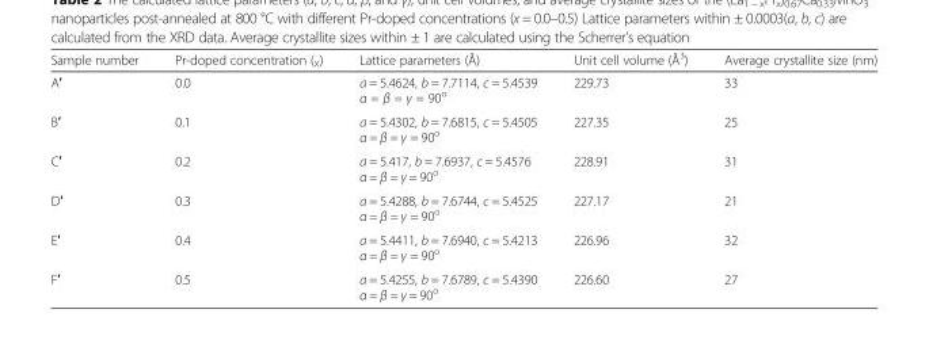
<table><thead><tr><td>Sample number</td><td>Pr-doped concentration (<sub>X</sub>)</td><td>Lattice parameters (Å)</td><td>Unit cell volume (Å<sup>3</sup>)</td><td>Average crystallite size (nm)</td></tr></thead><tbody><tr><td>A′</td><td>0.0</td><td>a = 5.4624, b = 7.7114, c = 5.4539 α = β = γ = 90<sup>o</sup></td><td>229.73</td><td>33</td></tr><tr><td>B′</td><td>0.1</td><td>a = 5.4302, b = 7.6815, c = 5.4505 α = β = γ = 90<sup>o</sup></td><td>227.35</td><td>25</td></tr><tr><td>C′</td><td>0.2</td><td>a = 5.417, b = 7.6937, c = 5.4576 α = β = γ = 90<sup>o</sup></td><td>228.91</td><td>31</td></tr><tr><td>D′</td><td>0.3</td><td>a = 5.4288, b = 7.6744, c = 5.4525 α = β = γ = 90<sup>o</sup></td><td>227.17</td><td>21</td></tr><tr><td>E′</td><td>0.4</td><td>a = 5.4411, b = 7.6940, c = 5.4213 α = β = γ = 90<sup>o</sup></td><td>226.96</td><td>32</td></tr><tr><td>F′</td><td>0.5</td><td>a = 5.4255, b = 7.6789, c = 5.4390 α = β = γ = 90<sup>o</sup></td><td>226.60</td><td>27</td></tr></tbody></table>